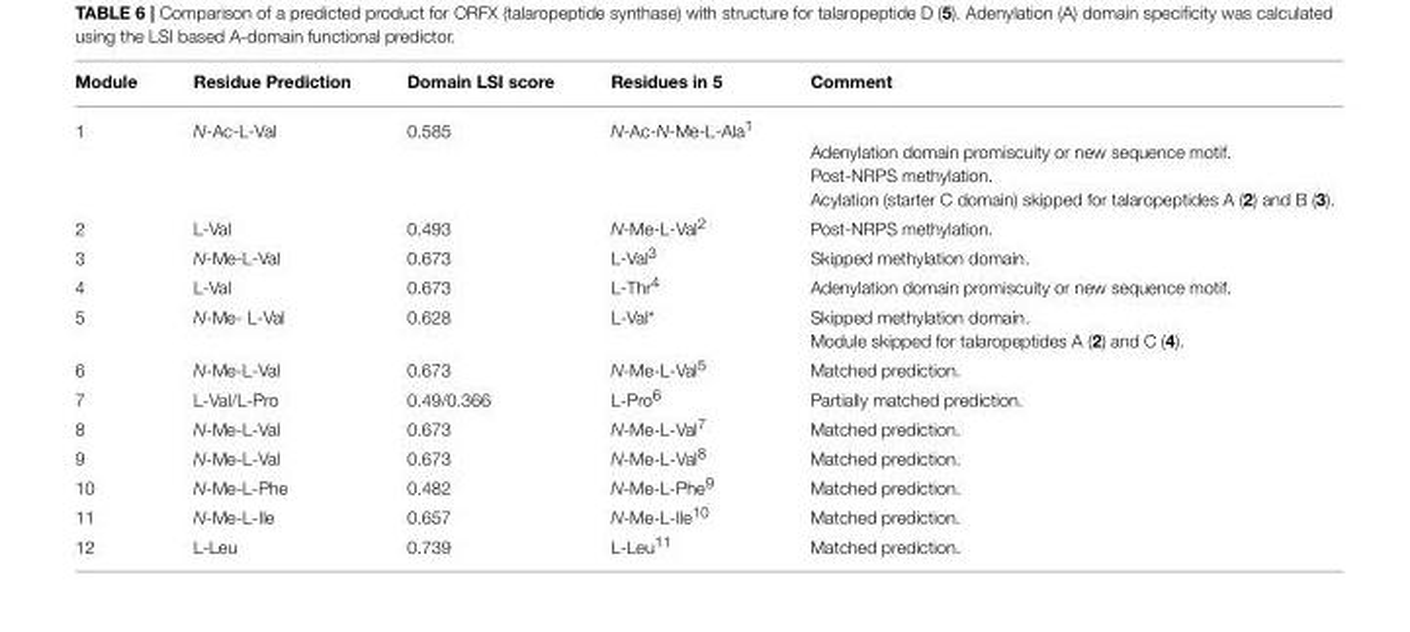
<table><thead><tr><td>Module</td><td>Residue Prediction</td><td>Domain LSI score</td><td>Residues in 5</td><td>Comment</td></tr></thead><tbody><tr><td>1</td><td>N-Ac-L-Val</td><td>0.585</td><td>N-Ac-N-Me-L-Ala<sup>1</sup></td><td>Adenylation domain promiscuity or new sequence motif. Post-NRPS methylation. Acylation (starter C domain) skipped for talaropeptides A (2) and B (3).</td></tr><tr><td>2</td><td>L-Val</td><td>0.493</td><td>N-Me-L-Val<sup>2</sup></td><td>Post-NRPS methylation.</td></tr><tr><td>3</td><td>N-Me-L-Val</td><td>0.673</td><td>L-Val<sup>3</sup></td><td>Skipped methylation domain.</td></tr><tr><td>4</td><td>L-Val</td><td>0.673</td><td>L-Thr<sup>4</sup></td><td>Adenylation domain promiscuity or new sequence motif.</td></tr><tr><td>5</td><td>N-Me- L-Val</td><td>0.628</td><td>L-Val*</td><td>Skipped methylation domain. Module skipped for talaropeptides A (2) and C (4).</td></tr><tr><td>6</td><td>N-Me-L-Val</td><td>0.673</td><td>N-Me-L-Val<sup>5</sup></td><td>Matched prediction.</td></tr><tr><td>7</td><td>L-Val/L-Pro</td><td>0.49/0.366</td><td>L-Pro<sup>6</sup></td><td>Partially matched prediction.</td></tr><tr><td>8</td><td>N-Me-L-Val</td><td>0.673</td><td>N-Me-L-Val<sup>7</sup></td><td>Matched prediction.</td></tr><tr><td>9</td><td>N-Me-L-Val</td><td>0.673</td><td>N-Me-L-Val<sup>8</sup></td><td>Matched prediction.</td></tr><tr><td>10</td><td>N-Me-L-Phe</td><td>0.482</td><td>N-Me-L-Phe<sup>9</sup></td><td>Matched prediction.</td></tr><tr><td>11</td><td>N-Me-L-Ile</td><td>0.657</td><td>N-Me-L-Ile<sup>10</sup></td><td>Matched prediction.</td></tr><tr><td>12</td><td>L-Leu</td><td>0.739</td><td>L-Leu<sup>11</sup></td><td>Matched prediction.</td></tr></tbody></table>